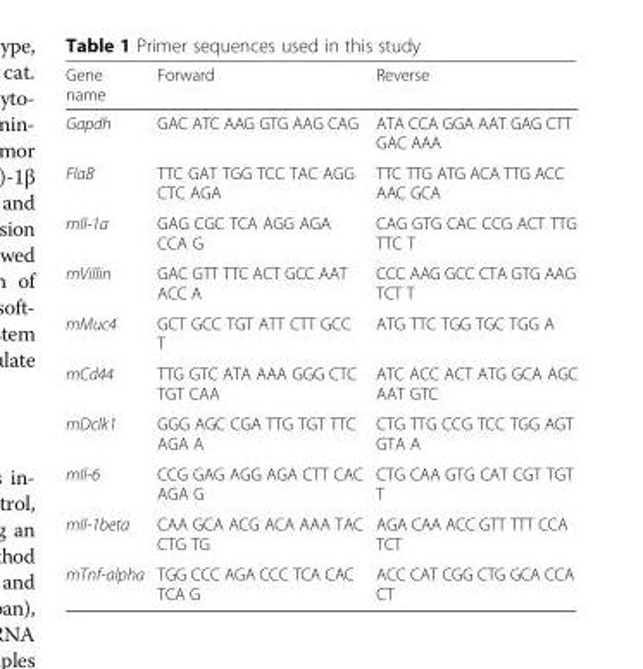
<table><thead><tr><td>Gene name</td><td>Forward</td><td>Reverse</td></tr></thead><tbody><tr><td>Gapdh</td><td>GAC ATC AAG GTG AAG CAG</td><td>ATA CCA GGA AAT GAG CTT GAC AAA</td></tr><tr><td>FlaB</td><td>TTC GAT TGG TCC TAC AGG CTC AGA</td><td>TTC TTG ATG ACA TTG ACC AAC GCA</td></tr><tr><td>mIl-1a</td><td>GAG CGC TCA AGG AGA CCA G</td><td>CAG GTG CAC CCG ACT TTG TTC T</td></tr><tr><td>mVillin</td><td>GAC GTT TTC ACT GCC AAT ACC A</td><td>CCC AAG GCC CTA GTG AAG TCT T</td></tr><tr><td>mMuc4</td><td>GCT GCC TGT ATT CTT GCC T</td><td>ATG TTC TGG TGC TGG A</td></tr><tr><td>mCd44</td><td>TTG GTC ATA AAA GGG CTC TGT CAA</td><td>ATC ACC ACT ATG GCA AGC AAT GTC</td></tr><tr><td>mDclk1</td><td>GGG AGC CGA TTG TGT TTC AGA A</td><td>CTG TTG CCG TCC TGG AGT GTA A</td></tr><tr><td>mIl-6</td><td>CCG GAG AGG AGA CTT CAC AGA G</td><td>CTG CAA GTG CAT CGT TGT T</td></tr><tr><td>mIl-1beta</td><td>CAA GCA ACG ACA AAA TAC CTG TG</td><td>AGA CAA ACC GTT TTT CCA TCT</td></tr><tr><td>mTnf-alpha</td><td>TGG CCC AGA CCC TCA CAC TCA G</td><td>ACC CAT CGG CTG GCA CCA CT</td></tr></tbody></table>